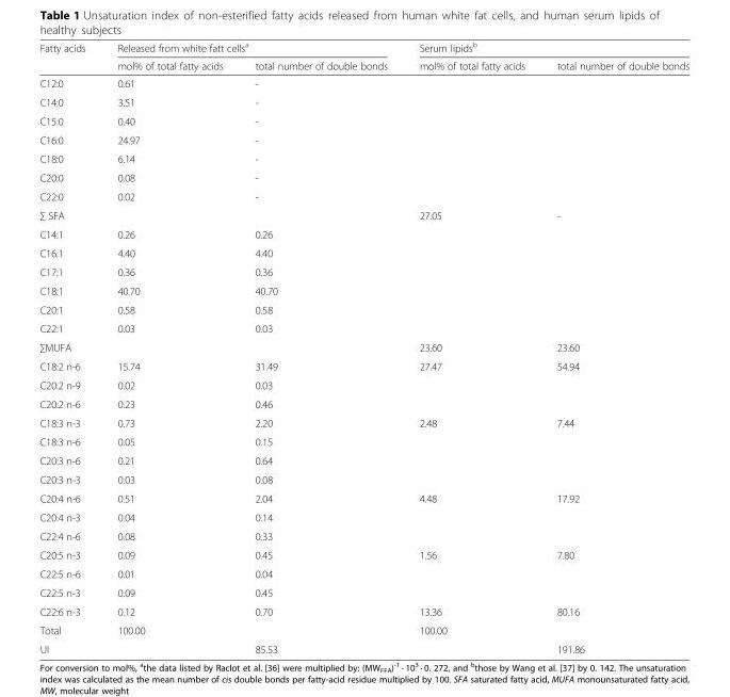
<table><thead><tr><td rowspan="2">Fatty acids</td><td colspan="2">Released from white fatt cells<sup>a</sup></td><td colspan="2">Serum lipids<sup>b</sup></td></tr><tr><td>mol% of total fatty acids</td><td>total number of double bonds</td><td>mol% of total fatty acids</td><td>total number of double bonds</td></tr></thead><tbody><tr><td>C12:0</td><td>0.61</td><td>-</td><td></td><td></td></tr><tr><td>C14:0</td><td>3.51</td><td>-</td><td></td><td></td></tr><tr><td>C15:0</td><td>0.40</td><td>-</td><td></td><td></td></tr><tr><td>C16:0</td><td>24.97</td><td>-</td><td></td><td></td></tr><tr><td>C18:0</td><td>6.14</td><td>-</td><td></td><td></td></tr><tr><td>C20:0</td><td>0.08</td><td>-</td><td></td><td></td></tr><tr><td>C22:0</td><td>0.02</td><td>-</td><td></td><td></td></tr><tr><td>∑ SFA</td><td></td><td></td><td>27.05</td><td>-</td></tr><tr><td>C14:1</td><td>0.26</td><td>0.26</td><td></td><td></td></tr><tr><td>C16:1</td><td>4.40</td><td>4.40</td><td></td><td></td></tr><tr><td>C17:1</td><td>0.36</td><td>0.36</td><td></td><td></td></tr><tr><td>C18:1</td><td>40.70</td><td>40.70</td><td></td><td></td></tr><tr><td>C20:1</td><td>0.58</td><td>0.58</td><td></td><td></td></tr><tr><td>C22:1</td><td>0.03</td><td>0.03</td><td></td><td></td></tr><tr><td>∑MUFA</td><td></td><td></td><td>23.60</td><td>23.60</td></tr><tr><td>C18:2 n-6</td><td>15.74</td><td>31.49</td><td>27.47</td><td>54.94</td></tr><tr><td>C20:2 n-9</td><td>0.02</td><td>0.03</td><td></td><td></td></tr><tr><td>C20:2 n-6</td><td>0.23</td><td>0.46</td><td></td><td></td></tr><tr><td>C18:3 n-3</td><td>0.73</td><td>2.20</td><td>2.48</td><td>7.44</td></tr><tr><td>C18:3 n-6</td><td>0.05</td><td>0.15</td><td></td><td></td></tr><tr><td>C20:3 n-6</td><td>0.21</td><td>0.64</td><td></td><td></td></tr><tr><td>C20:3 n-3</td><td>0.03</td><td>0.08</td><td></td><td></td></tr><tr><td>C20:4 n-6</td><td>0.51</td><td>2.04</td><td>4.48</td><td>17.92</td></tr><tr><td>C20:4 n-3</td><td>0.04</td><td>0.14</td><td></td><td></td></tr><tr><td>C22:4 n-6</td><td>0.08</td><td>0.33</td><td></td><td></td></tr><tr><td>C20:5 n-3</td><td>0.09</td><td>0.45</td><td>1.56</td><td>7.80</td></tr><tr><td>C22:5 n-6</td><td>0.01</td><td>0.04</td><td></td><td></td></tr><tr><td>C22:5 n-3</td><td>0.09</td><td>0.45</td><td></td><td></td></tr><tr><td>C22:6 n-3</td><td>0.12</td><td>0.70</td><td>13.36</td><td>80.16</td></tr><tr><td>Total</td><td>100.00</td><td></td><td>100.00</td><td></td></tr><tr><td>UI</td><td></td><td>85.53</td><td></td><td>191.86</td></tr></tbody></table>